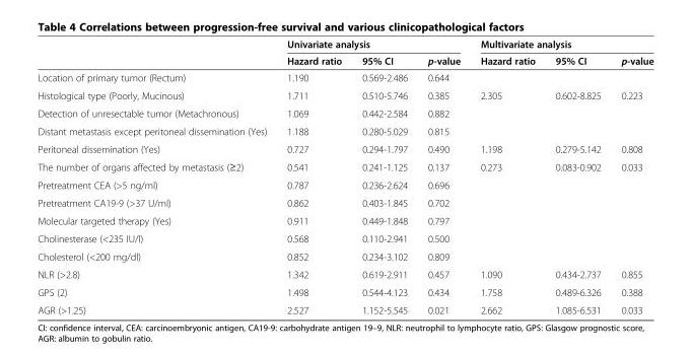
<table><thead><tr><td rowspan="2"></td><td colspan="3">Univariate analysis</td><td colspan="3">Multivariate analysis</td></tr><tr><td>Hazard ratio</td><td>95% CI</td><td>p-value</td><td>Hazard ratio</td><td>95% CI</td><td>p-value</td></tr></thead><tbody><tr><td>Location of primary tumor (Rectum)</td><td>1.190</td><td>0.569-2.486</td><td>0.644</td><td></td><td></td><td></td></tr><tr><td>Histological type (Poorly, Mucinous)</td><td>1.711</td><td>0.510-5.746</td><td>0.385</td><td>2.305</td><td>0.602-8.825</td><td>0.223</td></tr><tr><td>Detection of unresectable tumor (Metachronous)</td><td>1.069</td><td>0.442-2.584</td><td>0.882</td><td></td><td></td><td></td></tr><tr><td>Distant metastasis except peritoneal dissemination (Yes)</td><td>1.188</td><td>0.280-5.029</td><td>0.815</td><td></td><td></td><td></td></tr><tr><td>Peritoneal dissemination (Yes)</td><td>0.727</td><td>0.294-1.797</td><td>0.490</td><td>1.198</td><td>0.279-5.142</td><td>0.808</td></tr><tr><td>The number of organs affected by metastasis (≥2)</td><td>0.541</td><td>0.241-1.125</td><td>0.137</td><td>0.273</td><td>0.083-0.902</td><td>0.033</td></tr><tr><td>Pretreatment CEA (&gt;5 ng/ml)</td><td>0.787</td><td>0.236-2.624</td><td>0.696</td><td></td><td></td><td></td></tr><tr><td>Pretreatment CA19-9 (&gt;37 U/ml)</td><td>0.862</td><td>0.403-1.845</td><td>0.702</td><td></td><td></td><td></td></tr><tr><td>Molecular targeted therapy (Yes)</td><td>0.911</td><td>0.449-1.848</td><td>0.797</td><td></td><td></td><td></td></tr><tr><td>Cholinesterase (&lt;235 IU/l)</td><td>0.568</td><td>0.110-2.941</td><td>0.500</td><td></td><td></td><td></td></tr><tr><td>Cholesterol (&lt;200 mg/dl)</td><td>0.852</td><td>0.234-3.102</td><td>0.809</td><td></td><td></td><td></td></tr><tr><td>NLR (&gt;2.8)</td><td>1.342</td><td>0.619-2.911</td><td>0.457</td><td>1.090</td><td>0.434-2.737</td><td>0.855</td></tr><tr><td>GPS (2)</td><td>1.498</td><td>0.544-4.123</td><td>0.434</td><td>1.758</td><td>0.489-6.326</td><td>0.388</td></tr><tr><td>AGR (&gt;1.25)</td><td>2.527</td><td>1.152-5.545</td><td>0.021</td><td>2.662</td><td>1.085-6.531</td><td>0.033</td></tr></tbody></table>